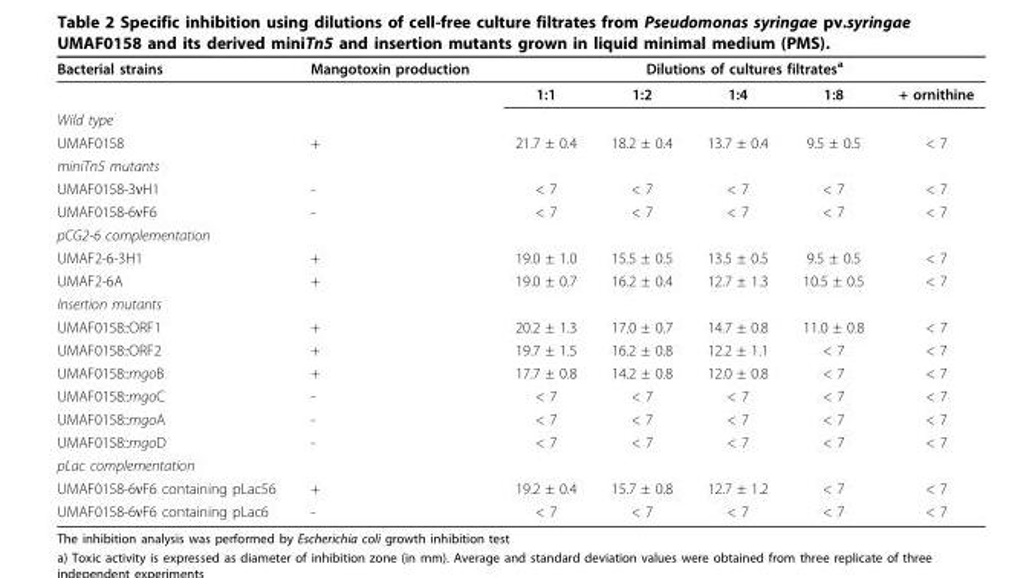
<table><thead><tr><td rowspan="2">Bacterial strains</td><td rowspan="2">Mangotoxin production</td><td colspan="5">Dilutions of cultures filtrates<sup>a</sup></td></tr><tr><td>1:1</td><td>1:2</td><td>1:4</td><td>1:8</td><td>+ ornithine</td></tr></thead><tbody><tr><td colspan="7">Wild type</td></tr><tr><td>UMAF0158</td><td>+</td><td>21.7 ± 0.4</td><td>18.2 ± 0.4</td><td>13.7 ± 0.4</td><td>9.5 ± 0.5</td><td>&lt; 7</td></tr><tr><td colspan="7">miniTn5 mutants</td></tr><tr><td>UMAF0158-3νH1</td><td>-</td><td>&lt; 7</td><td>&lt; 7</td><td>&lt; 7</td><td>&lt; 7</td><td>&lt; 7</td></tr><tr><td>UMAF0158-6νF6</td><td>-</td><td>&lt; 7</td><td>&lt; 7</td><td>&lt; 7</td><td>&lt; 7</td><td>&lt; 7</td></tr><tr><td colspan="7">pCG2-6 complementation</td></tr><tr><td>UMAF2-6-3H1</td><td>+</td><td>19.0 ± 1.0</td><td>15.5 ± 0.5</td><td>13.5 ± 0.5</td><td>9.5 ± 0.5</td><td>&lt; 7</td></tr><tr><td>UMAF2-6A</td><td>+</td><td>19.0 ± 0.7</td><td>16.2 ± 0.4</td><td>12.7 ± 1.3</td><td>10.5 ± 0.5</td><td>&lt; 7</td></tr><tr><td colspan="7">Insertion mutants</td></tr><tr><td>UMAF0158::ORF1</td><td>+</td><td>20.2 ± 1.3</td><td>17.0 ± 0.7</td><td>14.7 ± 0.8</td><td>11.0 ± 0.8</td><td>&lt; 7</td></tr><tr><td>UMAF0158::ORF2</td><td>+</td><td>19.7 ± 1.5</td><td>16.2 ± 0.8</td><td>12.2 ± 1.1</td><td>&lt; 7</td><td>&lt; 7</td></tr><tr><td>UMAF0158::mgoB</td><td>+</td><td>17.7 ± 0.8</td><td>14.2 ± 0.8</td><td>12.0 ± 0.8</td><td>&lt; 7</td><td>&lt; 7</td></tr><tr><td>UMAF0158::mgoC</td><td>-</td><td>&lt; 7</td><td>&lt; 7</td><td>&lt; 7</td><td>&lt; 7</td><td>&lt; 7</td></tr><tr><td>UMAF0158::mgoA</td><td>-</td><td>&lt; 7</td><td>&lt; 7</td><td>&lt; 7</td><td>&lt; 7</td><td>&lt; 7</td></tr><tr><td>UMAF0158::mgoD</td><td>-</td><td>&lt; 7</td><td>&lt; 7</td><td>&lt; 7</td><td>&lt; 7</td><td>&lt; 7</td></tr><tr><td colspan="7">pLac complementation</td></tr><tr><td>UMAF0158-6νF6 containing pLac56</td><td>+</td><td>19.2 ± 0.4</td><td>15.7 ± 0.8</td><td>12.7 ± 1.2</td><td>&lt; 7</td><td>&lt; 7</td></tr><tr><td>UMAF0158-6νF6 containing pLac6</td><td>-</td><td>&lt; 7</td><td>&lt; 7</td><td>&lt; 7</td><td>&lt; 7</td><td>&lt; 7</td></tr></tbody></table>